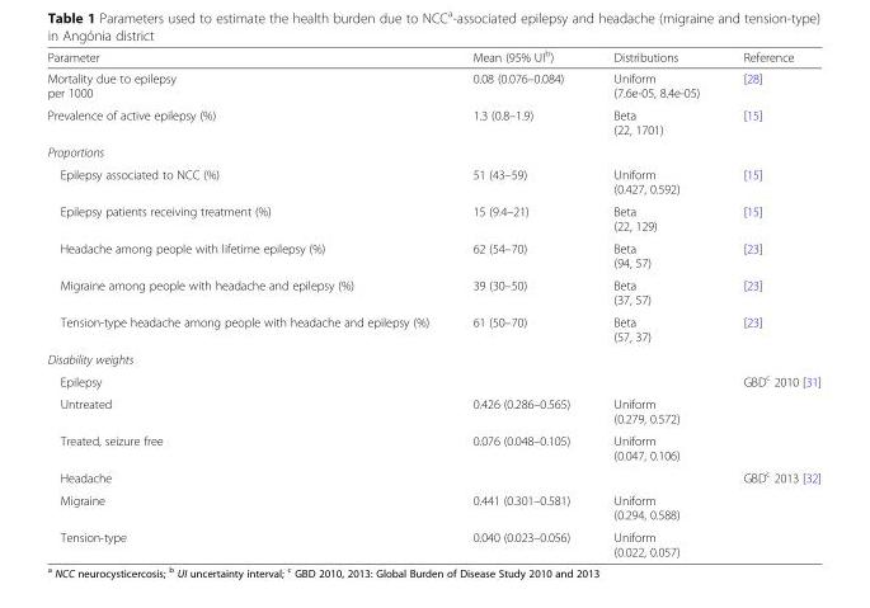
<table><thead><tr><td>Parameter</td><td>Mean (95% UI<sup>b</sup>)</td><td>Distributions</td><td>Reference</td></tr></thead><tbody><tr><td>Mortality due to epilepsy per 1000</td><td>0.08 (0.076–0.084)</td><td>Uniform (7.6e-05, 8.4e-05)</td><td>[28]</td></tr><tr><td>Prevalence of active epilepsy (%)</td><td>1.3 (0.8–1.9)</td><td>Beta (22, 1701)</td><td>[15]</td></tr><tr><td colspan="4">Proportions</td></tr><tr><td>Epilepsy associated to NCC (%)</td><td>51 (43–59)</td><td>Uniform (0.427, 0.592)</td><td>[15]</td></tr><tr><td>Epilepsy patients receiving treatment (%)</td><td>15 (9.4–21)</td><td>Beta (22, 129)</td><td>[15]</td></tr><tr><td>Headache among people with lifetime epilepsy (%)</td><td>62 (54–70)</td><td>Beta (94, 57)</td><td>[23]</td></tr><tr><td>Migraine among people with headache and epilepsy (%)</td><td>39 (30–50)</td><td>Beta (37, 57)</td><td>[23]</td></tr><tr><td>Tension-type headache among people with headache and epilepsy (%)</td><td>61 (50–70)</td><td>Beta (57, 37)</td><td>[23]</td></tr><tr><td colspan="4">Disability weights</td></tr><tr><td>Epilepsy</td><td></td><td></td><td>GBD<sup>c</sup> 2010 [31]</td></tr><tr><td>Untreated</td><td>0.426 (0.286–0.565)</td><td>Uniform (0.279, 0.572)</td><td></td></tr><tr><td>Treated, seizure free</td><td>0.076 (0.048–0.105)</td><td>Uniform (0.047, 0.106)</td><td></td></tr><tr><td>Headache</td><td></td><td></td><td>GBD<sup>c</sup> 2013 [32]</td></tr><tr><td>Migraine</td><td>0.441 (0.301–0.581)</td><td>Uniform (0.294, 0.588)</td><td></td></tr><tr><td>Tension-type</td><td>0.040 (0.023–0.056)</td><td>Uniform (0.022, 0.057)</td><td></td></tr></tbody></table>